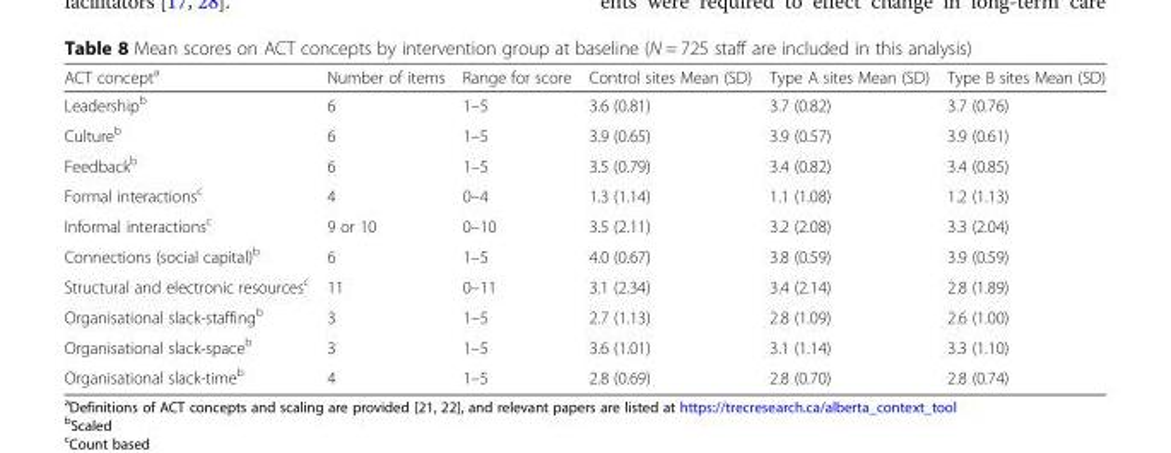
<table><thead><tr><td>ACT concept<sup>a</sup></td><td>Number of items</td><td>Range for score</td><td>Control sites Mean (SD)</td><td>Type A sites Mean (SD)</td><td>Type B sites Mean (SD)</td></tr></thead><tbody><tr><td>Leadership<sup>b</sup></td><td>6</td><td>1–5</td><td>3.6 (0.81)</td><td>3.7 (0.82)</td><td>3.7 (0.76)</td></tr><tr><td>Culture<sup>b</sup></td><td>6</td><td>1–5</td><td>3.9 (0.65)</td><td>3.9 (0.57)</td><td>3.9 (0.61)</td></tr><tr><td>Feedback<sup>b</sup></td><td>6</td><td>1–5</td><td>3.5 (0.79)</td><td>3.4 (0.82)</td><td>3.4 (0.85)</td></tr><tr><td>Formal interactions<sup>c</sup></td><td>4</td><td>0–4</td><td>1.3 (1.14)</td><td>1.1 (1.08)</td><td>1.2 (1.13)</td></tr><tr><td>Informal interactions<sup>c</sup></td><td>9 or 10</td><td>0–10</td><td>3.5 (2.11)</td><td>3.2 (2.08)</td><td>3.3 (2.04)</td></tr><tr><td>Connections (social capital)<sup>b</sup></td><td>6</td><td>1–5</td><td>4.0 (0.67)</td><td>3.8 (0.59)</td><td>3.9 (0.59)</td></tr><tr><td>Structural and electronic resources<sup>c</sup></td><td>11</td><td>0–11</td><td>3.1 (2.34)</td><td>3.4 (2.14)</td><td>2.8 (1.89)</td></tr><tr><td>Organisational slack-staffing<sup>b</sup></td><td>3</td><td>1–5</td><td>2.7 (1.13)</td><td>2.8 (1.09)</td><td>2.6 (1.00)</td></tr><tr><td>Organisational slack-space<sup>b</sup></td><td>3</td><td>1–5</td><td>3.6 (1.01)</td><td>3.1 (1.14)</td><td>3.3 (1.10)</td></tr><tr><td>Organisational slack-time<sup>b</sup></td><td>4</td><td>1–5</td><td>2.8 (0.69)</td><td>2.8 (0.70)</td><td>2.8 (0.74)</td></tr></tbody></table>